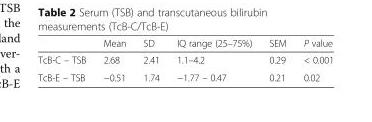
<table><thead><tr><td></td><td>Mean</td><td>SD</td><td>IQ range (25–75%)</td><td>SEM</td><td>P value</td></tr></thead><tbody><tr><td>TcB-C – TSB</td><td>2.68</td><td>2.41</td><td>1.1–4.2</td><td>0.29</td><td>&lt; 0.001</td></tr><tr><td>TcB-E – TSB</td><td>−0.51</td><td>1.74</td><td>−1.77 – 0.47</td><td>0.21</td><td>0.02</td></tr></tbody></table>